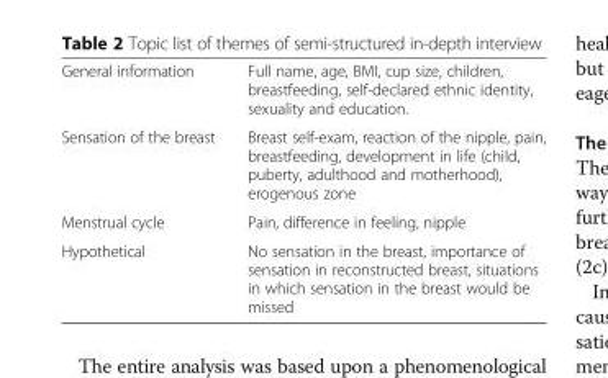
<table><tbody><tr><td>General information</td><td>Full name, age, BMI, cup size, children, breastfeeding, self-declared ethnic identity, sexuality and education.</td></tr><tr><td>Sensation of the breast</td><td>Breast self-exam, reaction of the nipple, pain, breastfeeding, development in life (child, puberty, adulthood and motherhood), erogenous zone</td></tr><tr><td>Menstrual cycle</td><td>Pain, difference in feeling, nipple</td></tr><tr><td>Hypothetical</td><td>No sensation in the breast, importance of sensation in reconstructed breast, situations in which sensation in the breast would be missed</td></tr></tbody></table>